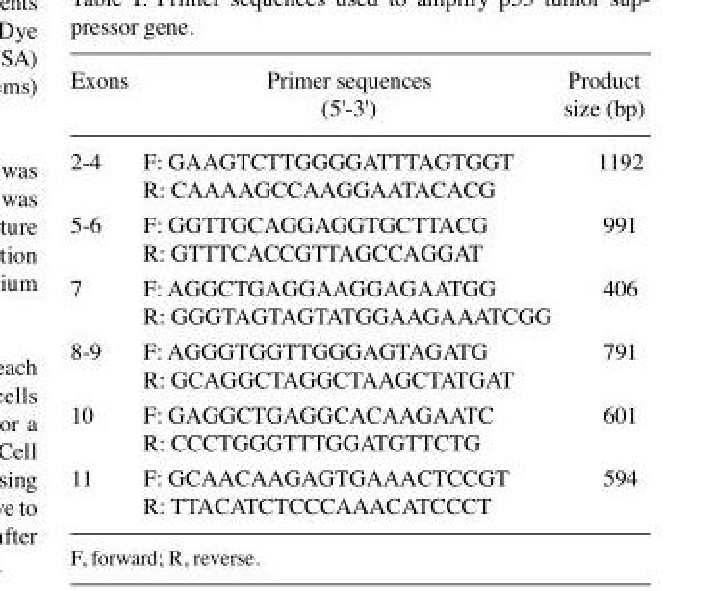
<table><thead><tr><td>Exons</td><td>Primer sequences (5&#x27;-3&#x27;)</td><td>Product size (bp)</td></tr></thead><tbody><tr><td>2-4</td><td>F: GAAGTCTTGGGGATTTAGTGGT R: CAAAAGCCAAGGAATACACG</td><td>1192</td></tr><tr><td>5-6</td><td>F: GGTTGCAGGAGGTGCTTACG R: GTTTCACCGTTAGCCAGGAT</td><td>991</td></tr><tr><td>7</td><td>F: AGGCTGAGGAAGGAGAATGG R: GGGTAGTAGTATGGAAGAAATCGG</td><td>406</td></tr><tr><td>8-9</td><td>F: AGGGTGGTTGGGAGTAGATG R: GCAGGCTAGGCTAAGCTATGAT</td><td>791</td></tr><tr><td>10</td><td>F: GAGGCTGAGGCACAAGAATC R: CCCTGGGTTTGGATGTTCTG</td><td>601</td></tr><tr><td>11</td><td>F: GCAACAAGAGTGAAACTCCGT R: TTACATCTCCCAAACATCCCT</td><td>594</td></tr></tbody></table>